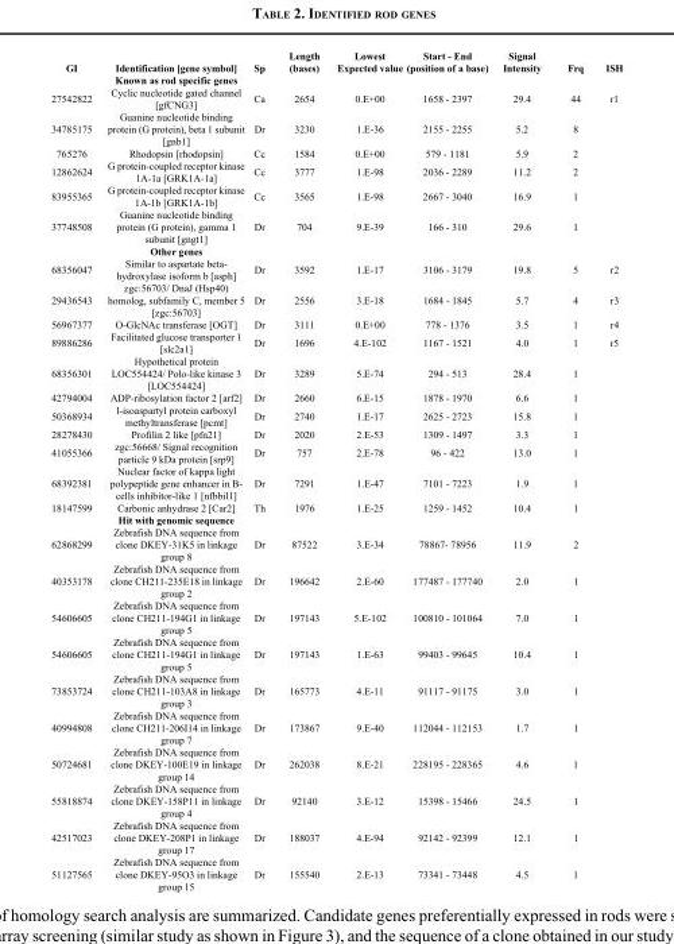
<table><thead><tr><td>GI</td><td>Identification [gene symbol]</td><td>Sp</td><td>Length (bases)</td><td>Lowest Expected value</td><td>Start - End (position of a base)</td><td>Signal Intensity</td><td>Frq</td><td>ISH</td></tr></thead><tbody><tr><td></td><td>Known as rod specific genes</td><td></td><td></td><td></td><td></td><td></td><td></td><td></td></tr><tr><td>27542822</td><td>Cyclic nucleotide gated channel [gfCNG3]</td><td>Ca</td><td>2654</td><td>0.E+00</td><td>1658 - 2397</td><td>29.4</td><td>44</td><td>r1</td></tr><tr><td>34785175</td><td>Guanine nucleotide binding protein (G protein), beta 1 subunit [gnb1]</td><td>Dr</td><td>3230</td><td>1.E-36</td><td>2155 - 2255</td><td>5.2</td><td>8</td><td></td></tr><tr><td>765276</td><td>Rhodopsin [rhodopsin]</td><td>Cc</td><td>1584</td><td>0.E+00</td><td>579 - 1181</td><td>5.9</td><td>2</td><td></td></tr><tr><td>12862624</td><td>G protein-coupled receptor kinase 1A-1a [GRK1A-1a]</td><td>Cc</td><td>3777</td><td>1.E-98</td><td>2036 - 2289</td><td>11.2</td><td>2</td><td></td></tr><tr><td>83955365</td><td>G protein-coupled receptor kinase 1A-1b [GRK1A-1b]</td><td>Cc</td><td>3565</td><td>1.E-98</td><td>2667 - 3040</td><td>16.9</td><td>1</td><td></td></tr><tr><td rowspan="2">37748508</td><td>Guanine nucleotide binding protein (G protein), gamma 1 subunit [gngt1]</td><td>Dr</td><td>704</td><td>9.E-39</td><td>166 - 310</td><td>29.6</td><td>1</td><td></td></tr><tr><td>Other genes</td><td></td><td></td><td></td><td></td><td></td><td></td><td></td></tr><tr><td>68356047</td><td>Similar to aspartate beta- hydroxylase isoform b [asph]</td><td>Dr</td><td>3592</td><td>1.E-17</td><td>3106 - 3179</td><td>19.8</td><td>5</td><td>r2</td></tr><tr><td>29436543</td><td>zgc:56703/ DnaJ (Hsp40) homolog, subfamily C, member 5 [zgc:56703]</td><td>Dr</td><td>2556</td><td>3.E-18</td><td>1684 - 1845</td><td>5.7</td><td>4</td><td>r3</td></tr><tr><td>56967377</td><td>O-GlcNAc transferase [OGT]</td><td>Dr</td><td>3111</td><td>0.E+00</td><td>778 - 1376</td><td>3.5</td><td>1</td><td>r4</td></tr><tr><td>89886286</td><td>Facilitated glucose transporter 1 [slc2a1]</td><td>Dr</td><td>1696</td><td>4.E-102</td><td>1167 - 1521</td><td>4.0</td><td>1</td><td>r5</td></tr><tr><td>68356301</td><td>Hypothetical protein LOC554424/ Polo-like kinase 3 [LOC554424]</td><td>Dr</td><td>3289</td><td>5.E-74</td><td>294 - 513</td><td>28.4</td><td>1</td><td></td></tr><tr><td>42794004</td><td>ADP-ribosylation factor 2 [arf2]</td><td>Dr</td><td>2660</td><td>6.E-15</td><td>1878 - 1970</td><td>6.6</td><td>1</td><td></td></tr><tr><td>50368934</td><td>l-isoaspartyl protein carboxyl methyltransferase [pcmt]</td><td>Dr</td><td>2740</td><td>1.E-17</td><td>2625 - 2723</td><td>15.8</td><td>1</td><td></td></tr><tr><td>28278430</td><td>Profilin 2 like [pfn21]</td><td>Dr</td><td>2020</td><td>2.E-53</td><td>1309 - 1497</td><td>3.3</td><td>1</td><td></td></tr><tr><td>41055366</td><td>zgc:56668/ Signal recognition particle 9 kDa protein [srp9]</td><td>Dr</td><td>757</td><td>2.E-78</td><td>96 - 422</td><td>13.0</td><td>1</td><td></td></tr><tr><td>68392381</td><td>Nuclear factor of kappa light polypeptide gene enhancer in B- cells inhibitor-like 1 [nfbbil1]</td><td>Dr</td><td>7291</td><td>1.E-47</td><td>7101 - 7223</td><td>1.9</td><td>1</td><td></td></tr><tr><td rowspan="2">18147599</td><td>Carbonic anhydrase 2 [Car2]</td><td>Th</td><td>1976</td><td>1.E-25</td><td>1259 - 1452</td><td>10.4</td><td>1</td><td></td></tr><tr><td>Hit with genomic sequence</td><td></td><td></td><td></td><td></td><td></td><td></td><td></td></tr><tr><td>62868299</td><td>Zebrafish DNA sequence from clone DKEY-31K5 in linkage group 8</td><td>Dr</td><td>87522</td><td>3.E-34</td><td>78867- 78956</td><td>11.9</td><td>2</td><td></td></tr><tr><td>40353178</td><td>Zebrafish DNA sequence from clone CH211-235E18 in linkage group 2</td><td>Dr</td><td>196642</td><td>2.E-60</td><td>177487 - 177740</td><td>2.0</td><td>1</td><td></td></tr><tr><td>54606605</td><td>Zebrafish DNA sequence from clone CH211-194G1 in linkage group 5</td><td>Dr</td><td>197143</td><td>5.E-102</td><td>100810 - 101064</td><td>7.0</td><td>1</td><td></td></tr><tr><td>54606605</td><td>Zebrafish DNA sequence from clone CH211-194G1 in linkage group 5</td><td>Dr</td><td>197143</td><td>1.E-63</td><td>99403 - 99645</td><td>10.4</td><td>1</td><td></td></tr><tr><td>73853724</td><td>Zebrafish DNA sequence from clone CH211-103A8 in linkage group 3</td><td>Dr</td><td>165773</td><td>4.E-11</td><td>91117 - 91175</td><td>3.0</td><td>1</td><td></td></tr><tr><td>40994808</td><td>Zebrafish DNA sequence from clone CH211-206I14 in linkage group 7</td><td>Dr</td><td>173867</td><td>9.E-40</td><td>112044 - 112153</td><td>1.7</td><td>1</td><td></td></tr><tr><td>50724681</td><td>Zebrafish DNA sequence from clone DKEY-100E19 in linkage group 14</td><td>Dr</td><td>262038</td><td>8.E-21</td><td>228195 - 228365</td><td>4.6</td><td>1</td><td></td></tr><tr><td>55818874</td><td>Zebrafish DNA sequence from clone DKEY-158P11 in linkage group 4</td><td>Dr</td><td>92140</td><td>3.E-12</td><td>15398 - 15466</td><td>24.5</td><td>1</td><td></td></tr><tr><td>42517023</td><td>Zebrafish DNA sequence from clone DKEY-208P1 in linkage group 17</td><td>Dr</td><td>188037</td><td>4.E-94</td><td>92142 - 92399</td><td>12.1</td><td>1</td><td></td></tr><tr><td>51127565</td><td>Zebrafish DNA sequence from clone DKEY-95O3 in linkage group 15</td><td>Dr</td><td>155540</td><td>2.E-13</td><td>73341 - 73448</td><td>4.5</td><td>1</td><td></td></tr></tbody></table>